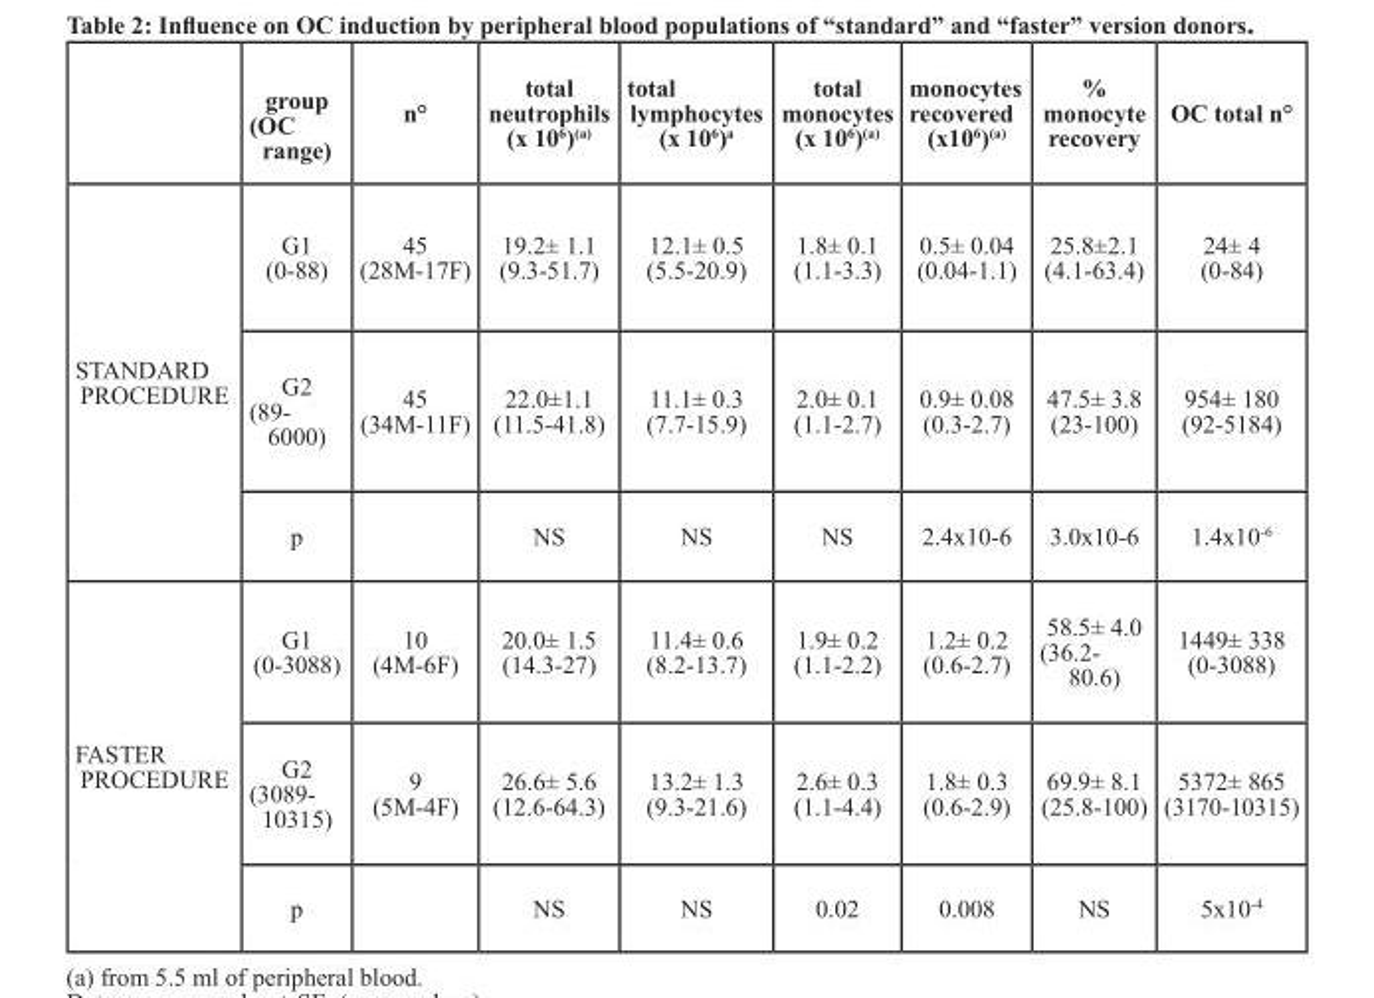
<table><thead><tr><td></td><td>group (OC range)</td><td>n°</td><td>total neutrophils (x 10<sup>6</sup>)<sup>(a)</sup></td><td>total lymphocytes (x 10<sup>6</sup>)<sup>a</sup></td><td>total monocytes (x 10<sup>6</sup>)<sup>(a)</sup></td><td>monocytes recovered (x10<sup>6</sup>)<sup>(a)</sup></td><td>% monocyte recovery</td><td>OC total n°</td></tr></thead><tbody><tr><td rowspan="3">STANDARD PROCEDURE</td><td>G1 (0-88)</td><td>45 (28M-17F)</td><td>19.2± 1.1 (9.3-51.7)</td><td>12.1± 0.5 (5.5-20.9)</td><td>1.8± 0.1 (1.1-3.3)</td><td>0.5± 0.04 (0.04-1.1)</td><td>25.8±2.1 (4.1-63.4)</td><td>24± 4 (0-84)</td></tr><tr><td>G2 (89- 6000)</td><td>45 (34M-11F)</td><td>22.0±1.1 (11.5-41.8)</td><td>11.1± 0.3 (7.7-15.9)</td><td>2.0± 0.1 (1.1-2.7)</td><td>0.9± 0.08 (0.3-2.7)</td><td>47.5± 3.8 (23-100)</td><td>954± 180 (92-5184)</td></tr><tr><td>p</td><td></td><td>NS</td><td>NS</td><td>NS</td><td>2.4x10-6</td><td>3.0x10-6</td><td>1.4x10-6</td></tr><tr><td rowspan="3">FASTER PROCEDURE</td><td>G1 (0-3088)</td><td>10 (4M-6F)</td><td>20.0± 1.5 (14.3-27)</td><td>11.4± 0.6 (8.2-13.7)</td><td>1.9± 0.2 (1.1-2.2)</td><td>1.2± 0.2 (0.6-2.7)</td><td>58.5± 4.0 (36.2- 80.6)</td><td>1449± 338 (0-3088)</td></tr><tr><td>G2 (3089- 10315)</td><td>9 (5M-4F)</td><td>26.6± 5.6 (12.6-64.3)</td><td>13.2± 1.3 (9.3-21.6)</td><td>2.6± 0.3 (1.1-4.4)</td><td>1.8± 0.3 (0.6-2.9)</td><td>69.9± 8.1 (25.8-100)</td><td>5372± 865 (3170-10315)</td></tr><tr><td>p</td><td></td><td>NS</td><td>NS</td><td>0.02</td><td>0.008</td><td>NS</td><td>5x10-4</td></tr></tbody></table>